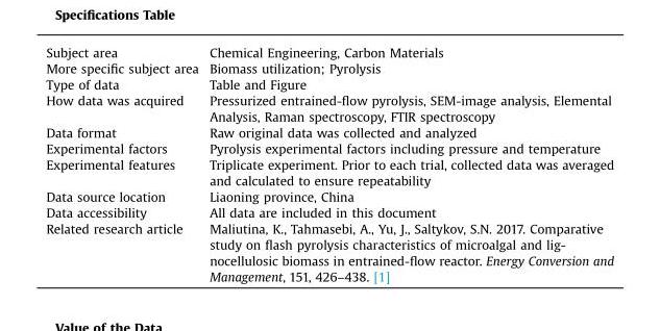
<table><tbody><tr><td>Subject area</td><td>Chemical Engineering, Carbon Materials</td></tr><tr><td>More specific subject area</td><td>Biomass utilization; Pyrolysis</td></tr><tr><td>Type of data</td><td>Table and Figure</td></tr><tr><td>How data was acquired</td><td>Pressurized entrained-flow pyrolysis, SEM-image analysis, Elemental Analysis, Raman spectroscopy, FTIR spectroscopy</td></tr><tr><td>Data format</td><td>Raw original data was collected and analyzed</td></tr><tr><td>Experimental factors</td><td>Pyrolysis experimental factors including pressure and temperature</td></tr><tr><td>Experimental features</td><td>Triplicate experiment. Prior to each trial, collected data was averaged and calculated to ensure repeatability</td></tr><tr><td>Data source location</td><td>Liaoning province, China</td></tr><tr><td>Data accessibility</td><td>All data are included in this document</td></tr><tr><td>Related research article</td><td>Maliutina, K., Tahmasebi, A., Yu, J., Saltykov, S.N. 2017. Comparative study on flash pyrolysis characteristics of microalgal and lig- nocellulosic biomass in entrained-flow reactor. Energy Conversion and Management, 151, 426–438. [1]</td></tr></tbody></table>